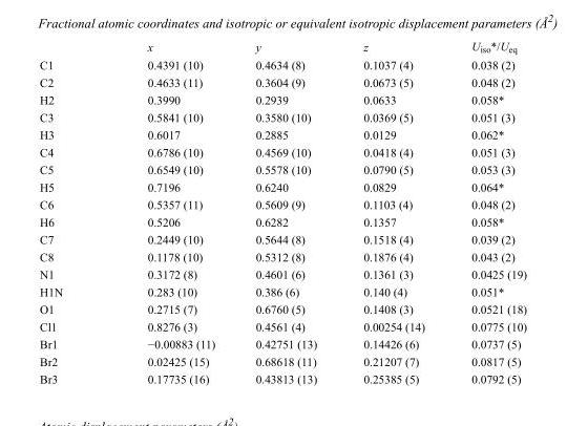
<table><thead><tr><td></td><td>x</td><td>y</td><td>z</td><td>U<sub>iso</sub>*/U<sub>eq</sub></td></tr></thead><tbody><tr><td>C1</td><td>0.4391 (10)</td><td>0.4634 (8)</td><td>0.1037 (4)</td><td>0.038 (2)</td></tr><tr><td>C2</td><td>0.4633 (11)</td><td>0.3604 (9)</td><td>0.0673 (5)</td><td>0.048 (2)</td></tr><tr><td>H2</td><td>0.3990</td><td>0.2939</td><td>0.0633</td><td>0.058*</td></tr><tr><td>C3</td><td>0.5841 (10)</td><td>0.3580 (10)</td><td>0.0369 (5)</td><td>0.051 (3)</td></tr><tr><td>H3</td><td>0.6017</td><td>0.2885</td><td>0.0129</td><td>0.062*</td></tr><tr><td>C4</td><td>0.6786 (10)</td><td>0.4569 (10)</td><td>0.0418 (4)</td><td>0.051 (3)</td></tr><tr><td>C5</td><td>0.6549 (10)</td><td>0.5578 (10)</td><td>0.0790 (5)</td><td>0.053 (3)</td></tr><tr><td>H5</td><td>0.7196</td><td>0.6240</td><td>0.0829</td><td>0.064*</td></tr><tr><td>C6</td><td>0.5357 (11)</td><td>0.5609 (9)</td><td>0.1103 (4)</td><td>0.048 (2)</td></tr><tr><td>H6</td><td>0.5206</td><td>0.6282</td><td>0.1357</td><td>0.058*</td></tr><tr><td>C7</td><td>0.2449 (10)</td><td>0.5644 (8)</td><td>0.1518 (4)</td><td>0.039 (2)</td></tr><tr><td>C8</td><td>0.1178 (10)</td><td>0.5312 (8)</td><td>0.1876 (4)</td><td>0.043 (2)</td></tr><tr><td>N1</td><td>0.3172 (8)</td><td>0.4601 (6)</td><td>0.1361 (3)</td><td>0.0425 (19)</td></tr><tr><td>H1N</td><td>0.283 (10)</td><td>0.386 (6)</td><td>0.140 (4)</td><td>0.051*</td></tr><tr><td>O1</td><td>0.2715 (7)</td><td>0.6760 (5)</td><td>0.1408 (3)</td><td>0.0521 (18)</td></tr><tr><td>Cl1</td><td>0.8276 (3)</td><td>0.4561 (4)</td><td>0.00254 (14)</td><td>0.0775 (10)</td></tr><tr><td>Br1</td><td>−0.00883 (11)</td><td>0.42751 (13)</td><td>0.14426 (6)</td><td>0.0737 (5)</td></tr><tr><td>Br2</td><td>0.02425 (15)</td><td>0.68618 (11)</td><td>0.21207 (7)</td><td>0.0817 (5)</td></tr><tr><td>Br3</td><td>0.17735 (16)</td><td>0.43813 (13)</td><td>0.25385 (5)</td><td>0.0792 (5)</td></tr></tbody></table>